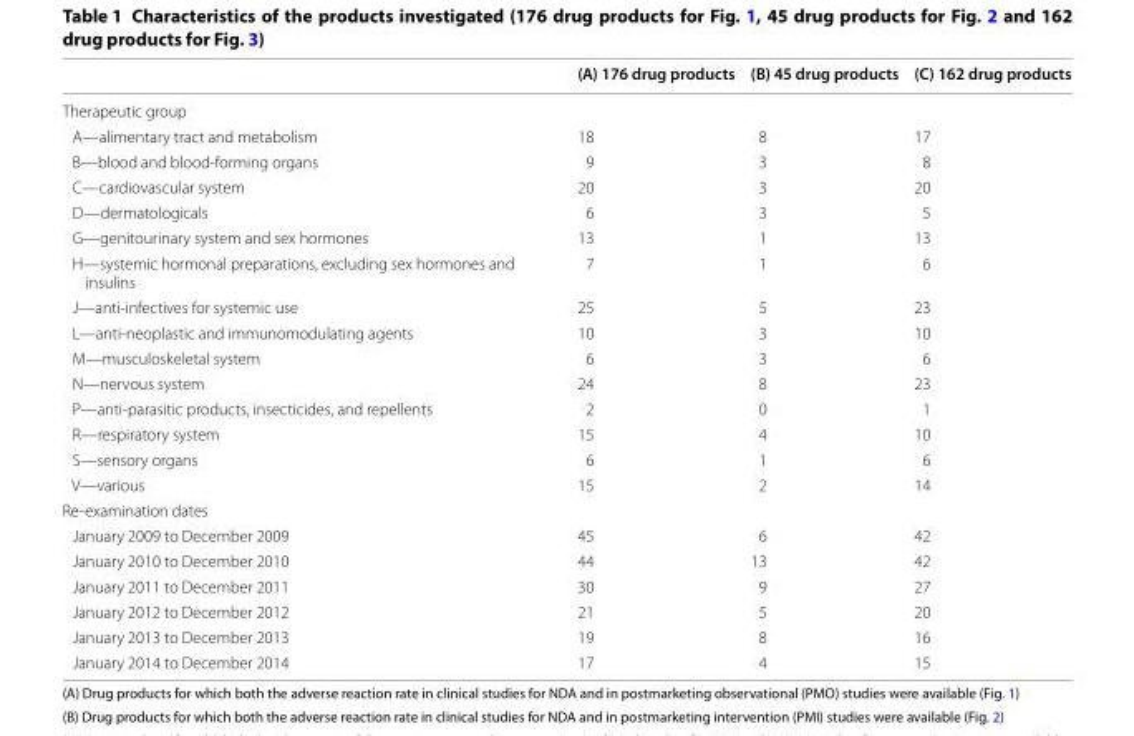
<table><thead><tr><td></td><td>(A) 176 drug products</td><td>(B) 45 drug products</td><td>(C) 162 drug products</td></tr></thead><tbody><tr><td colspan="4">Therapeutic group</td></tr><tr><td>A—alimentary tract and metabolism</td><td>18</td><td>8</td><td>17</td></tr><tr><td>B—blood and blood-forming organs</td><td>9</td><td>3</td><td>8</td></tr><tr><td>C—cardiovascular system</td><td>20</td><td>3</td><td>20</td></tr><tr><td>D—dermatologicals</td><td>6</td><td>3</td><td>5</td></tr><tr><td>G—genitourinary system and sex hormones</td><td>13</td><td>1</td><td>13</td></tr><tr><td>H—systemic hormonal preparations, excluding sex hormones and insulins</td><td>7</td><td>1</td><td>6</td></tr><tr><td>J—anti-infectives for systemic use</td><td>25</td><td>5</td><td>23</td></tr><tr><td>L—anti-neoplastic and immunomodulating agents</td><td>10</td><td>3</td><td>10</td></tr><tr><td>M—musculoskeletal system</td><td>6</td><td>3</td><td>6</td></tr><tr><td>N—nervous system</td><td>24</td><td>8</td><td>23</td></tr><tr><td>P—anti-parasitic products, insecticides, and repellents</td><td>2</td><td>0</td><td>1</td></tr><tr><td>R—respiratory system</td><td>15</td><td>4</td><td>10</td></tr><tr><td>S—sensory organs</td><td>6</td><td>1</td><td>6</td></tr><tr><td>V—various</td><td>15</td><td>2</td><td>14</td></tr><tr><td colspan="4">Re-examination dates</td></tr><tr><td>January 2009 to December 2009</td><td>45</td><td>6</td><td>42</td></tr><tr><td>January 2010 to December 2010</td><td>44</td><td>13</td><td>42</td></tr><tr><td>January 2011 to December 2011</td><td>30</td><td>9</td><td>27</td></tr><tr><td>January 2012 to December 2012</td><td>21</td><td>5</td><td>20</td></tr><tr><td>January 2013 to December 2013</td><td>19</td><td>8</td><td>16</td></tr><tr><td>January 2014 to December 2014</td><td>17</td><td>4</td><td>15</td></tr></tbody></table>